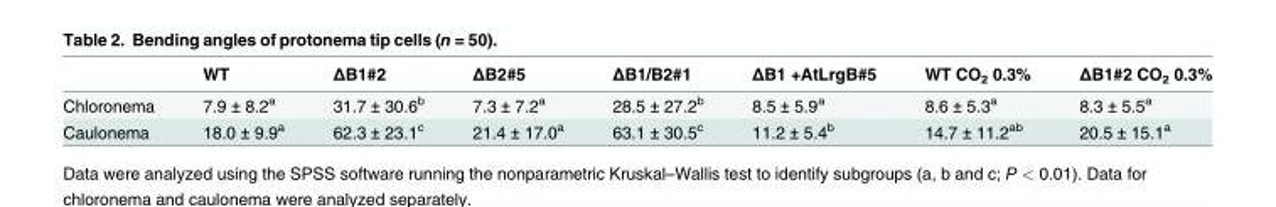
<table><thead><tr><td></td><td>WT</td><td>ΔB1#2</td><td>ΔB2#5</td><td>ΔB1/B2#1</td><td>ΔB1 +AtLrgB#5</td><td>WT CO<sub>2</sub> 0.3%</td><td>ΔB1#2 CO<sub>2</sub> 0.3%</td></tr></thead><tbody><tr><td>Chloronema</td><td>7.9 ± 8.2<sup>a</sup></td><td>31.7 ± 30.6<sup>b</sup></td><td>7.3 ± 7.2<sup>a</sup></td><td>28.5 ± 27.2<sup>b</sup></td><td>8.5 ± 5.9<sup>a</sup></td><td>8.6 ± 5.3<sup>a</sup></td><td>8.3 ± 5.5<sup>a</sup></td></tr><tr><td>Caulonema</td><td>18.0 ± 9.9<sup>a</sup></td><td>62.3 ± 23.1<sup>c</sup></td><td>21.4 ± 17.0<sup>a</sup></td><td>63.1 ± 30.5<sup>c</sup></td><td>11.2 ± 5.4<sup>b</sup></td><td>14.7 ± 11.2<sup>ab</sup></td><td>20.5 ± 15.1<sup>a</sup></td></tr></tbody></table>